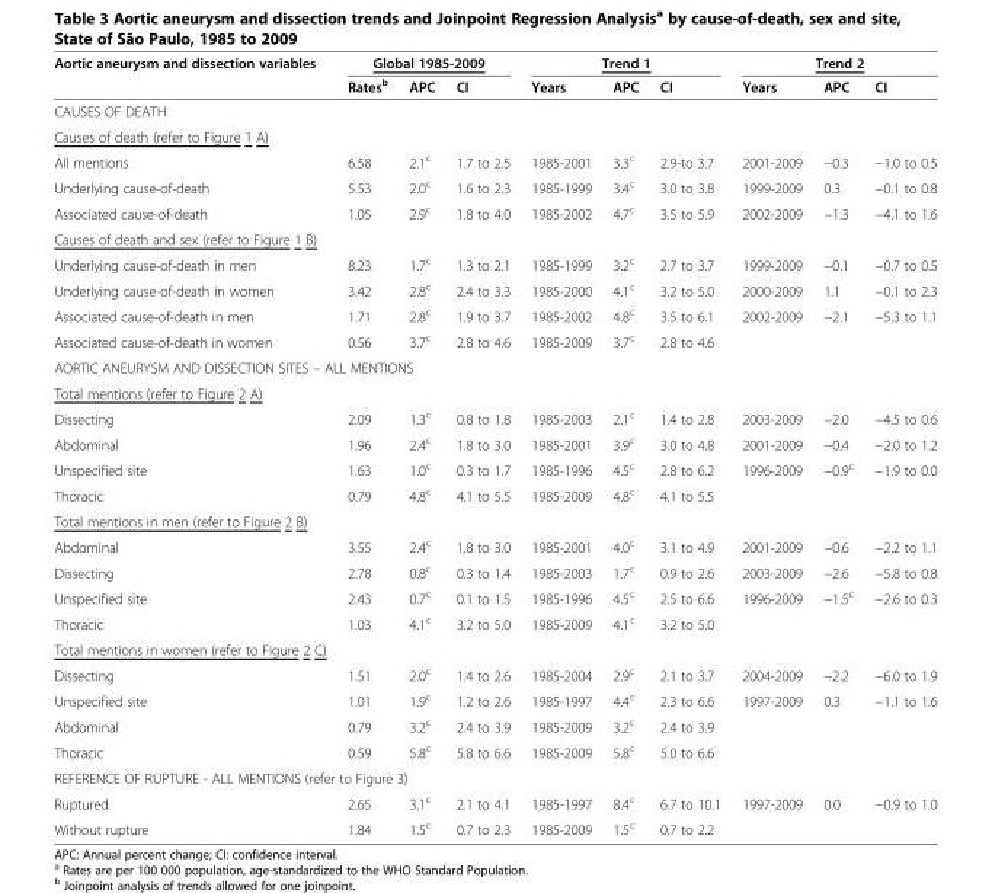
<table><thead><tr><td rowspan="2">Aortic aneurysm and dissection variables</td><td colspan="3">Global 1985-2009</td><td colspan="3">Trend 1</td><td colspan="3">Trend 2</td></tr><tr><td>Rates<sup>b</sup></td><td>APC</td><td>CI</td><td>Years</td><td>APC</td><td>CI</td><td>Years</td><td>APC</td><td>CI</td></tr></thead><tbody><tr><td colspan="10">CAUSES OF DEATH</td></tr><tr><td colspan="10">Causes of death (refer to Figure 1 A)</td></tr><tr><td>All mentions</td><td>6.58</td><td>2.1<sup>c</sup></td><td>1.7 to 2.5</td><td>1985-2001</td><td>3.3<sup>c</sup></td><td>2.9-to 3.7</td><td>2001-2009</td><td>−0.3</td><td>−1.0 to 0.5</td></tr><tr><td>Underlying cause-of-death</td><td>5.53</td><td>2.0<sup>c</sup></td><td>1.6 to 2.3</td><td>1985-1999</td><td>3.4<sup>c</sup></td><td>3.0 to 3.8</td><td>1999-2009</td><td>0.3</td><td>−0.1 to 0.8</td></tr><tr><td>Associated cause-of-death</td><td>1.05</td><td>2.9<sup>c</sup></td><td>1.8 to 4.0</td><td>1985-2002</td><td>4.7<sup>c</sup></td><td>3.5 to 5.9</td><td>2002-2009</td><td>−1.3</td><td>−4.1 to 1.6</td></tr><tr><td colspan="10">Causes of death and sex (refer to Figure 1 B)</td></tr><tr><td>Underlying cause-of-death in men</td><td>8.23</td><td>1.7<sup>c</sup></td><td>1.3 to 2.1</td><td>1985-1999</td><td>3.2<sup>c</sup></td><td>2.7 to 3.7</td><td>1999-2009</td><td>−0.1</td><td>−0.7 to 0.5</td></tr><tr><td>Underlying cause-of-death in women</td><td>3.42</td><td>2.8<sup>c</sup></td><td>2.4 to 3.3</td><td>1985-2000</td><td>4.1<sup>c</sup></td><td>3.2 to 5.0</td><td>2000-2009</td><td>1.1</td><td>−0.1 to 2.3</td></tr><tr><td>Associated cause-of-death in men</td><td>1.71</td><td>2.8<sup>c</sup></td><td>1.9 to 3.7</td><td>1985-2002</td><td>4.8<sup>c</sup></td><td>3.5 to 6.1</td><td>2002-2009</td><td>−2.1</td><td>−5.3 to 1.1</td></tr><tr><td>Associated cause-of-death in women</td><td>0.56</td><td>3.7<sup>c</sup></td><td>2.8 to 4.6</td><td>1985-2009</td><td>3.7<sup>c</sup></td><td>2.8 to 4.6</td><td></td><td></td><td></td></tr><tr><td colspan="10">AORTIC ANEURYSM AND DISSECTION SITES – ALL MENTIONS</td></tr><tr><td colspan="10">Total mentions (refer to Figure 2 A)</td></tr><tr><td>Dissecting</td><td>2.09</td><td>1.3<sup>c</sup></td><td>0.8 to 1.8</td><td>1985-2003</td><td>2.1<sup>c</sup></td><td>1.4 to 2.8</td><td>2003-2009</td><td>−2.0</td><td>−4.5 to 0.6</td></tr><tr><td>Abdominal</td><td>1.96</td><td>2.4<sup>c</sup></td><td>1.8 to 3.0</td><td>1985-2001</td><td>3.9<sup>c</sup></td><td>3.0 to 4.8</td><td>2001-2009</td><td>−0.4</td><td>−2.0 to 1.2</td></tr><tr><td>Unspecified site</td><td>1.63</td><td>1.0<sup>c</sup></td><td>0.3 to 1.7</td><td>1985-1996</td><td>4.5<sup>c</sup></td><td>2.8 to 6.2</td><td>1996-2009</td><td>−0.9<sup>c</sup></td><td>−1.9 to 0.0</td></tr><tr><td>Thoracic</td><td>0.79</td><td>4.8<sup>c</sup></td><td>4.1 to 5.5</td><td>1985-2009</td><td>4.8<sup>c</sup></td><td>4.1 to 5.5</td><td></td><td></td><td></td></tr><tr><td colspan="10">Total mentions in men (refer to Figure 2 B)</td></tr><tr><td>Abdominal</td><td>3.55</td><td>2.4<sup>c</sup></td><td>1.8 to 3.0</td><td>1985-2001</td><td>4.0<sup>c</sup></td><td>3.1 to 4.9</td><td>2001-2009</td><td>−0.6</td><td>−2.2 to 1.1</td></tr><tr><td>Dissecting</td><td>2.78</td><td>0.8<sup>c</sup></td><td>0.3 to 1.4</td><td>1985-2003</td><td>1.7<sup>c</sup></td><td>0.9 to 2.6</td><td>2003-2009</td><td>−2.6</td><td>−5.8 to 0.8</td></tr><tr><td>Unspecified site</td><td>2.43</td><td>0.7<sup>c</sup></td><td>0.1 to 1.5</td><td>1985-1996</td><td>4.5<sup>c</sup></td><td>2.5 to 6.6</td><td>1996-2009</td><td>−1.5<sup>c</sup></td><td>−2.6 to 0.3</td></tr><tr><td>Thoracic</td><td>1.03</td><td>4.1<sup>c</sup></td><td>3.2 to 5.0</td><td>1985-2009</td><td>4.1<sup>c</sup></td><td>3.2 to 5.0</td><td></td><td></td><td></td></tr><tr><td colspan="10">Total mentions in women (refer to Figure 2 C)</td></tr><tr><td>Dissecting</td><td>1.51</td><td>2.0<sup>c</sup></td><td>1.4 to 2.6</td><td>1985-2004</td><td>2.9<sup>c</sup></td><td>2.1 to 3.7</td><td>2004-2009</td><td>−2.2</td><td>−6.0 to 1.9</td></tr><tr><td>Unspecified site</td><td>1.01</td><td>1.9<sup>c</sup></td><td>1.2 to 2.6</td><td>1985-1997</td><td>4.4<sup>c</sup></td><td>2.3 to 6.6</td><td>1997-2009</td><td>0.3</td><td>−1.1 to 1.6</td></tr><tr><td>Abdominal</td><td>0.79</td><td>3.2<sup>c</sup></td><td>2.4 to 3.9</td><td>1985-2009</td><td>3.2<sup>c</sup></td><td>2.4 to 3.9</td><td></td><td></td><td></td></tr><tr><td>Thoracic</td><td>0.59</td><td>5.8<sup>c</sup></td><td>5.8 to 6.6</td><td>1985-2009</td><td>5.8<sup>c</sup></td><td>5.0 to 6.6</td><td></td><td></td><td></td></tr><tr><td colspan="10">REFERENCE OF RUPTURE - ALL MENTIONS (refer to Figure 3)</td></tr><tr><td>Ruptured</td><td>2.65</td><td>3.1<sup>c</sup></td><td>2.1 to 4.1</td><td>1985-1997</td><td>8.4<sup>c</sup></td><td>6.7 to 10.1</td><td>1997-2009</td><td>0.0</td><td>−0.9 to 1.0</td></tr><tr><td>Without rupture</td><td>1.84</td><td>1.5<sup>c</sup></td><td>0.7 to 2.3</td><td>1985-2009</td><td>1.5<sup>c</sup></td><td>0.7 to 2.2</td><td></td><td></td><td></td></tr></tbody></table>